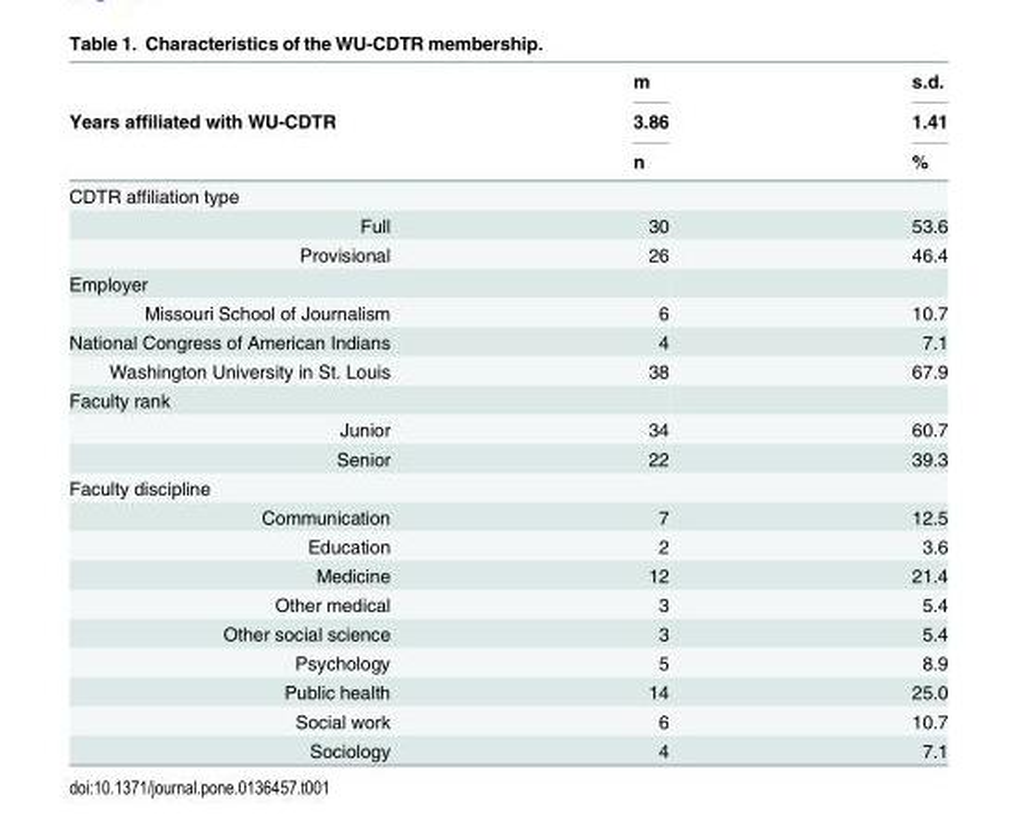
<table><thead><tr><td rowspan="3">Years affiliated with WU-CDTR</td><td rowspan="3">m 3.86 n</td><td rowspan="3">s.d. 1.41 %</td></tr><tr></tr><tr></tr></thead><tbody><tr><td colspan="3">CDTR affiliation type</td></tr><tr><td>Full</td><td>30</td><td>53.6</td></tr><tr><td>Provisional</td><td>26</td><td>46.4</td></tr><tr><td colspan="3">Employer</td></tr><tr><td>Missouri School of Journalism</td><td>6</td><td>10.7</td></tr><tr><td>National Congress of American Indians</td><td>4</td><td>7.1</td></tr><tr><td>Washington University in St. Louis</td><td>38</td><td>67.9</td></tr><tr><td colspan="3">Faculty rank</td></tr><tr><td>Junior</td><td>34</td><td>60.7</td></tr><tr><td>Senior</td><td>22</td><td>39.3</td></tr><tr><td colspan="3">Faculty discipline</td></tr><tr><td>Communication</td><td>7</td><td>12.5</td></tr><tr><td>Education</td><td>2</td><td>3.6</td></tr><tr><td>Medicine</td><td>12</td><td>21.4</td></tr><tr><td>Other medical</td><td>3</td><td>5.4</td></tr><tr><td>Other social science</td><td>3</td><td>5.4</td></tr><tr><td>Psychology</td><td>5</td><td>8.9</td></tr><tr><td>Public health</td><td>14</td><td>25.0</td></tr><tr><td>Social work</td><td>6</td><td>10.7</td></tr><tr><td>Sociology</td><td>4</td><td>7.1</td></tr></tbody></table>